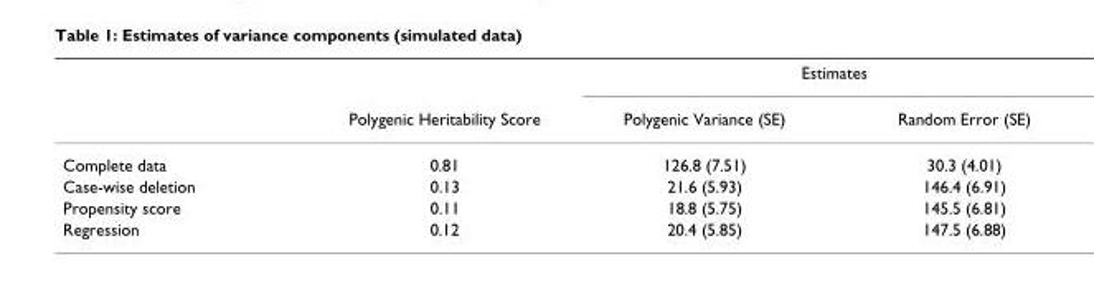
<table><thead><tr><td rowspan="2"></td><td rowspan="2">Polygenic Heritability Score</td><td colspan="2">Estimates</td></tr><tr><td>Polygenic Variance (SE)</td><td>Random Error (SE)</td></tr></thead><tbody><tr><td>Complete data</td><td>0.81</td><td>126.8 (7.51)</td><td>30.3 (4.01)</td></tr><tr><td>Case-wise deletion</td><td>0.13</td><td>21.6 (5.93)</td><td>146.4 (6.91)</td></tr><tr><td>Propensity score</td><td>0.11</td><td>18.8 (5.75)</td><td>145.5 (6.81)</td></tr><tr><td>Regression</td><td>0.12</td><td>20.4 (5.85)</td><td>147.5 (6.88)</td></tr></tbody></table>